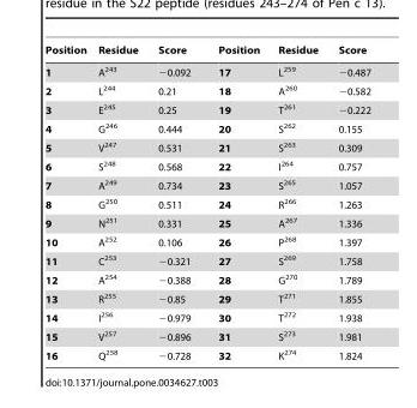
<table><thead><tr><td>Position</td><td>Residue</td><td>Score</td><td>Position</td><td>Residue</td><td>Score</td></tr></thead><tbody><tr><td>1</td><td>A<sup>243</sup></td><td>−0.092</td><td>17</td><td>L<sup>259</sup></td><td>−0.487</td></tr><tr><td>2</td><td>L<sup>244</sup></td><td>0.21</td><td>18</td><td>A<sup>260</sup></td><td>−0.582</td></tr><tr><td>3</td><td>E<sup>245</sup></td><td>0.25</td><td>19</td><td>T<sup>261</sup></td><td>−0.222</td></tr><tr><td>4</td><td>G<sup>246</sup></td><td>0.444</td><td>20</td><td>S<sup>262</sup></td><td>0.155</td></tr><tr><td>5</td><td>V<sup>247</sup></td><td>0.531</td><td>21</td><td>S<sup>263</sup></td><td>0.309</td></tr><tr><td>6</td><td>S<sup>248</sup></td><td>0.568</td><td>22</td><td>I<sup>264</sup></td><td>0.757</td></tr><tr><td>7</td><td>A<sup>249</sup></td><td>0.734</td><td>23</td><td>S<sup>265</sup></td><td>1.057</td></tr><tr><td>8</td><td>G<sup>250</sup></td><td>0.511</td><td>24</td><td>R<sup>266</sup></td><td>1.263</td></tr><tr><td>9</td><td>N<sup>251</sup></td><td>0.331</td><td>25</td><td>A<sup>267</sup></td><td>1.336</td></tr><tr><td>10</td><td>A<sup>252</sup></td><td>0.106</td><td>26</td><td>P<sup>268</sup></td><td>1.397</td></tr><tr><td>11</td><td>C<sup>253</sup></td><td>−0.321</td><td>27</td><td>S<sup>269</sup></td><td>1.758</td></tr><tr><td>12</td><td>A<sup>254</sup></td><td>−0.388</td><td>28</td><td>G<sup>270</sup></td><td>1.789</td></tr><tr><td>13</td><td>R<sup>255</sup></td><td>−0.85</td><td>29</td><td>T<sup>271</sup></td><td>1.855</td></tr><tr><td>14</td><td>I<sup>256</sup></td><td>−0.979</td><td>30</td><td>T<sup>272</sup></td><td>1.938</td></tr><tr><td>15</td><td>V<sup>257</sup></td><td>−0.896</td><td>31</td><td>S<sup>273</sup></td><td>1.981</td></tr><tr><td>16</td><td>Q<sup>258</sup></td><td>−0.728</td><td>32</td><td>K<sup>274</sup></td><td>1.824</td></tr></tbody></table>